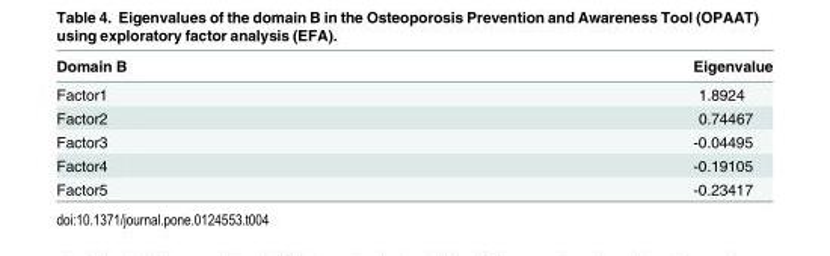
<table><thead><tr><td>Domain B</td><td>Eigenvalue</td></tr></thead><tbody><tr><td>Factor1</td><td>1.8924</td></tr><tr><td>Factor2</td><td>0.74467</td></tr><tr><td>Factor3</td><td>-0.04495</td></tr><tr><td>Factor4</td><td>-0.19105</td></tr><tr><td>Factor5</td><td>-0.23417</td></tr></tbody></table>